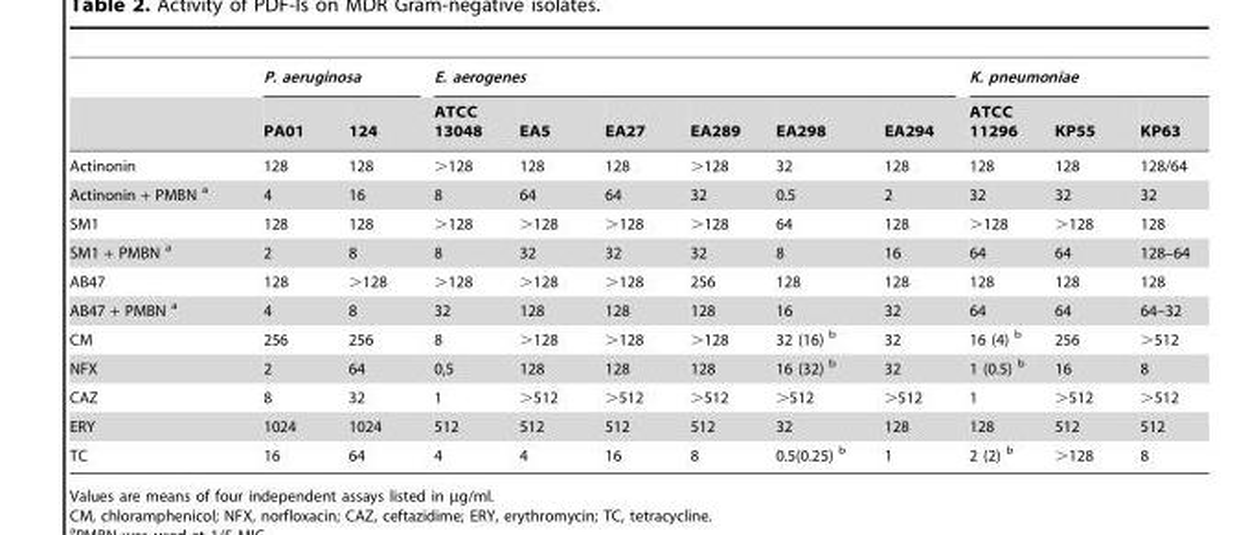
<table><thead><tr><td rowspan="2"></td><td colspan="2">P. aeruginosa</td><td colspan="6">E. aerogenes</td><td colspan="3">K. pneumoniae</td></tr><tr><td>PA01</td><td>124</td><td>ATCC 13048</td><td>EA5</td><td>EA27</td><td>EA289</td><td>EA298</td><td>EA294</td><td>ATCC 11296</td><td>KP55</td><td>KP63</td></tr></thead><tbody><tr><td>Actinonin</td><td>128</td><td>128</td><td>&gt;128</td><td>128</td><td>128</td><td>&gt;128</td><td>32</td><td>128</td><td>128</td><td>128</td><td>128/64</td></tr><tr><td>Actinonin + PMBN a</td><td>4</td><td>16</td><td>8</td><td>64</td><td>64</td><td>32</td><td>0.5</td><td>2</td><td>32</td><td>32</td><td>32</td></tr><tr><td>SM1</td><td>128</td><td>128</td><td>&gt;128</td><td>&gt;128</td><td>&gt;128</td><td>&gt;128</td><td>64</td><td>128</td><td>&gt;128</td><td>&gt;128</td><td>128</td></tr><tr><td>SM1 + PMBN a</td><td>2</td><td>8</td><td>8</td><td>32</td><td>32</td><td>32</td><td>8</td><td>16</td><td>64</td><td>64</td><td>128–64</td></tr><tr><td>AB47</td><td>128</td><td>&gt;128</td><td>&gt;128</td><td>&gt;128</td><td>&gt;128</td><td>256</td><td>128</td><td>128</td><td>128</td><td>128</td><td>128</td></tr><tr><td>AB47 + PMBN a</td><td>4</td><td>8</td><td>32</td><td>128</td><td>128</td><td>128</td><td>16</td><td>32</td><td>64</td><td>64</td><td>64–32</td></tr><tr><td>CM</td><td>256</td><td>256</td><td>8</td><td>&gt;128</td><td>&gt;128</td><td>&gt;128</td><td>32 (16) b</td><td>32</td><td>16 (4) b</td><td>256</td><td>&gt;512</td></tr><tr><td>NFX</td><td>2</td><td>64</td><td>0,5</td><td>128</td><td>128</td><td>128</td><td>16 (32) b</td><td>32</td><td>1 (0.5) b</td><td>16</td><td>8</td></tr><tr><td>CAZ</td><td>8</td><td>32</td><td>1</td><td>&gt;512</td><td>&gt;512</td><td>&gt;512</td><td>&gt;512</td><td>&gt;512</td><td>1</td><td>&gt;512</td><td>&gt;512</td></tr><tr><td>ERY</td><td>1024</td><td>1024</td><td>512</td><td>512</td><td>512</td><td>512</td><td>32</td><td>128</td><td>128</td><td>512</td><td>512</td></tr><tr><td>TC</td><td>16</td><td>64</td><td>4</td><td>4</td><td>16</td><td>8</td><td>0.5(0.25) b</td><td>1</td><td>2 (2) b</td><td>&gt;128</td><td>8</td></tr></tbody></table>